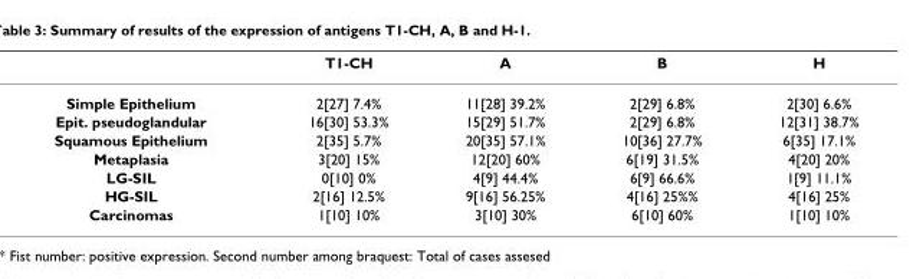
<table><thead><tr><td></td><td>T1-CH</td><td>A</td><td>B</td><td>H</td></tr></thead><tbody><tr><td>Simple Epithelium</td><td>2[27] 7.4%</td><td>11[28] 39.2%</td><td>2[29] 6.8%</td><td>2[30] 6.6%</td></tr><tr><td>Epit. pseudoglandular</td><td>16[30] 53.3%</td><td>15[29] 51.7%</td><td>2[29] 6.8%</td><td>12[31] 38.7%</td></tr><tr><td>Squamous Epithelium</td><td>2[35] 5.7%</td><td>20[35] 57.1%</td><td>10[36] 27.7%</td><td>6[35] 17.1%</td></tr><tr><td>Metaplasia</td><td>3[20] 15%</td><td>12[20] 60%</td><td>6[19] 31.5%</td><td>4[20] 20%</td></tr><tr><td>LG-SIL</td><td>0[10] 0%</td><td>4[9] 44.4%</td><td>6[9] 66.6%</td><td>1[9] 11.1%</td></tr><tr><td>HG-SIL</td><td>2[16] 12.5%</td><td>9[16] 56.25%</td><td>4[16] 25%%</td><td>4[16] 25%</td></tr><tr><td>Carcinomas</td><td>1[10] 10%</td><td>3[10] 30%</td><td>6[10] 60%</td><td>1[10] 10%</td></tr></tbody></table>